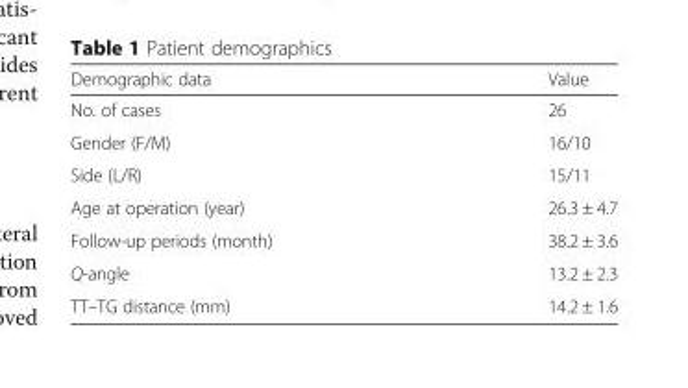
<table><thead><tr><td>Demographic data</td><td>Value</td></tr></thead><tbody><tr><td>No. of cases</td><td>26</td></tr><tr><td>Gender (F/M)</td><td>16/10</td></tr><tr><td>Side (L/R)</td><td>15/11</td></tr><tr><td>Age at operation (year)</td><td>26.3 ± 4.7</td></tr><tr><td>Follow-up periods (month)</td><td>38.2 ± 3.6</td></tr><tr><td>Q-angle</td><td>13.2 ± 2.3</td></tr><tr><td>TT–TG distance (mm)</td><td>14.2 ± 1.6</td></tr></tbody></table>